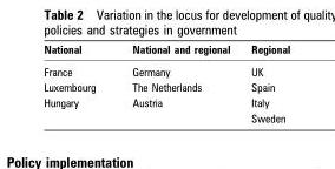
<table><thead><tr><td>National</td><td>National and regional</td><td>Regional</td></tr></thead><tbody><tr><td>France</td><td>Germany</td><td>UK</td></tr><tr><td>Luxembourg</td><td>The Netherlands</td><td>Spain</td></tr><tr><td rowspan="2">Hungary</td><td>Austria</td><td>Italy</td></tr><tr><td></td><td>Sweden</td></tr></tbody></table>